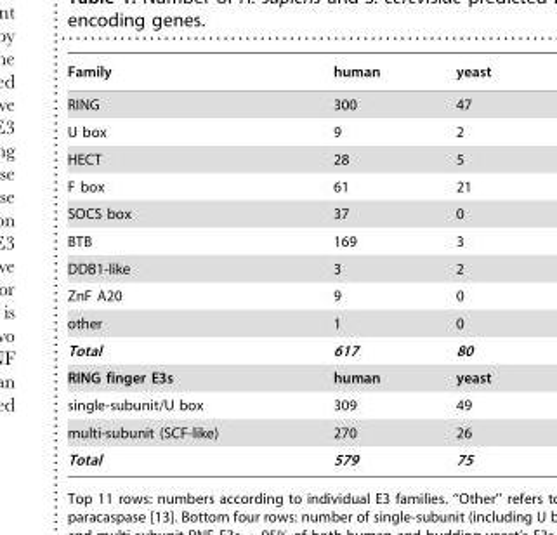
<table><thead><tr><td>Family</td><td>human</td><td>yeast</td></tr></thead><tbody><tr><td>RING</td><td>300</td><td>47</td></tr><tr><td>U box</td><td>9</td><td>2</td></tr><tr><td>HECT</td><td>28</td><td>5</td></tr><tr><td>F box</td><td>61</td><td>21</td></tr><tr><td>SOCS box</td><td>37</td><td>0</td></tr><tr><td>BTB</td><td>169</td><td>3</td></tr><tr><td>DDB1-like</td><td>3</td><td>2</td></tr><tr><td>ZnF A20</td><td>9</td><td>0</td></tr><tr><td>other</td><td>1</td><td>0</td></tr><tr><td>Total</td><td>617</td><td>80</td></tr><tr><td>RING finger E3s</td><td>human</td><td>yeast</td></tr><tr><td>single-subunit/U box</td><td>309</td><td>49</td></tr><tr><td>multi-subunit (SCF-like)</td><td>270</td><td>26</td></tr><tr><td>Total</td><td>579</td><td>75</td></tr></tbody></table>